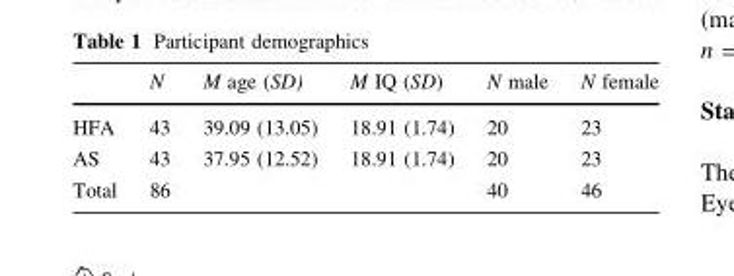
<table><thead><tr><td></td><td>N</td><td>M age (SD)</td><td>M IQ (SD)</td><td>N male</td><td>N female</td></tr></thead><tbody><tr><td>HFA</td><td>43</td><td>39.09 (13.05)</td><td>18.91 (1.74)</td><td>20</td><td>23</td></tr><tr><td>AS</td><td>43</td><td>37.95 (12.52)</td><td>18.91 (1.74)</td><td>20</td><td>23</td></tr><tr><td>Total</td><td>86</td><td></td><td></td><td>40</td><td>46</td></tr></tbody></table>